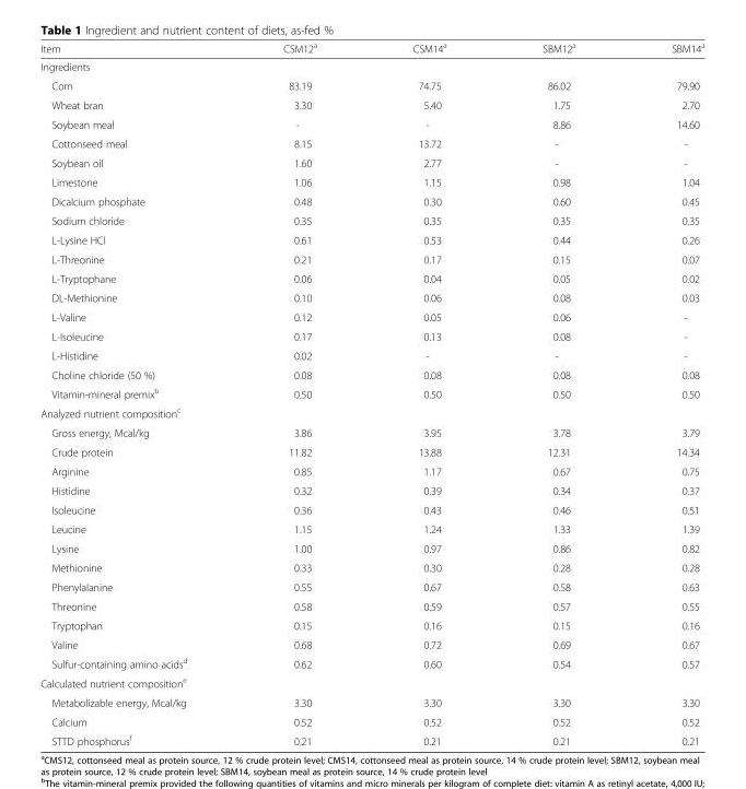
<table><thead><tr><td>Item</td><td>CSM12<sup>a</sup></td><td>CSM14<sup>a</sup></td><td>SBM12<sup>a</sup></td><td>SBM14<sup>a</sup></td></tr></thead><tbody><tr><td colspan="5">Ingredients</td></tr><tr><td>Corn</td><td>83.19</td><td>74.75</td><td>86.02</td><td>79.90</td></tr><tr><td>Wheat bran</td><td>3.30</td><td>5.40</td><td>1.75</td><td>2.70</td></tr><tr><td>Soybean meal</td><td>-</td><td>-</td><td>8.86</td><td>14.60</td></tr><tr><td>Cottonseed meal</td><td>8.15</td><td>13.72</td><td>-</td><td>-</td></tr><tr><td>Soybean oil</td><td>1.60</td><td>2.77</td><td>-</td><td>-</td></tr><tr><td>Limestone</td><td>1.06</td><td>1.15</td><td>0.98</td><td>1.04</td></tr><tr><td>Dicalcium phosphate</td><td>0.48</td><td>0.30</td><td>0.60</td><td>0.45</td></tr><tr><td>Sodium chloride</td><td>0.35</td><td>0.35</td><td>0.35</td><td>0.35</td></tr><tr><td>L-Lysine HCl</td><td>0.61</td><td>0.53</td><td>0.44</td><td>0.26</td></tr><tr><td>L-Threonine</td><td>0.21</td><td>0.17</td><td>0.15</td><td>0.07</td></tr><tr><td>L-Tryptophane</td><td>0.06</td><td>0.04</td><td>0.05</td><td>0.02</td></tr><tr><td>DL-Methionine</td><td>0.10</td><td>0.06</td><td>0.08</td><td>0.03</td></tr><tr><td>L-Valine</td><td>0.12</td><td>0.05</td><td>0.06</td><td>-</td></tr><tr><td>L-Isoleucine</td><td>0.17</td><td>0.13</td><td>0.08</td><td>-</td></tr><tr><td>L-Histidine</td><td>0.02</td><td>-</td><td>-</td><td>-</td></tr><tr><td>Choline chloride (50 %)</td><td>0.08</td><td>0.08</td><td>0.08</td><td>0.08</td></tr><tr><td>Vitamin-mineral premix<sup>b</sup></td><td>0.50</td><td>0.50</td><td>0.50</td><td>0.50</td></tr><tr><td colspan="5">Analyzed nutrient composition<sup>c</sup></td></tr><tr><td>Gross energy, Mcal/kg</td><td>3.86</td><td>3.95</td><td>3.78</td><td>3.79</td></tr><tr><td>Crude protein</td><td>11.82</td><td>13.88</td><td>12.31</td><td>14.34</td></tr><tr><td>Arginine</td><td>0.85</td><td>1.17</td><td>0.67</td><td>0.75</td></tr><tr><td>Histidine</td><td>0.32</td><td>0.39</td><td>0.34</td><td>0.37</td></tr><tr><td>Isoleucine</td><td>0.36</td><td>0.43</td><td>0.46</td><td>0.51</td></tr><tr><td>Leucine</td><td>1.15</td><td>1.24</td><td>1.33</td><td>1.39</td></tr><tr><td>Lysine</td><td>1.00</td><td>0.97</td><td>0.86</td><td>0.82</td></tr><tr><td>Methionine</td><td>0.33</td><td>0.30</td><td>0.28</td><td>0.28</td></tr><tr><td>Phenylalanine</td><td>0.55</td><td>0.67</td><td>0.58</td><td>0.63</td></tr><tr><td>Threonine</td><td>0.58</td><td>0.59</td><td>0.57</td><td>0.55</td></tr><tr><td>Tryptophan</td><td>0.15</td><td>0.16</td><td>0.15</td><td>0.16</td></tr><tr><td>Valine</td><td>0.68</td><td>0.72</td><td>0.69</td><td>0.67</td></tr><tr><td>Sulfur-containing amino acids<sup>d</sup></td><td>0.62</td><td>0.60</td><td>0.54</td><td>0.57</td></tr><tr><td colspan="5">Calculated nutrient composition<sup>e</sup></td></tr><tr><td>Metabolizable energy, Mcal/kg</td><td>3.30</td><td>3.30</td><td>3.30</td><td>3.30</td></tr><tr><td>Calcium</td><td>0.52</td><td>0.52</td><td>0.52</td><td>0.52</td></tr><tr><td>STTD phosphorus<sup>f</sup></td><td>0.21</td><td>0.21</td><td>0.21</td><td>0.21</td></tr></tbody></table>